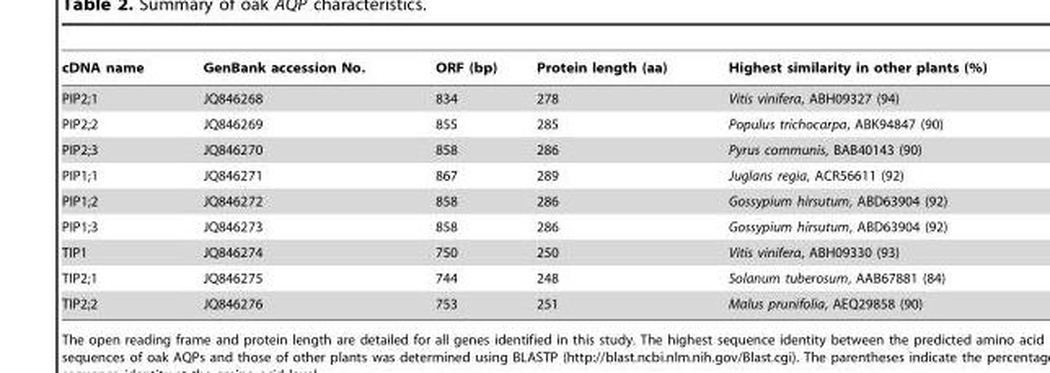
<table><thead><tr><td>cDNA name</td><td>GenBank accession No.</td><td>ORF (bp)</td><td>Protein length (aa)</td><td>Highest similarity in other plants (%)</td></tr></thead><tbody><tr><td>PIP2;1</td><td>JQ846268</td><td>834</td><td>278</td><td>Vitis vinifera, ABH09327 (94)</td></tr><tr><td>PIP2;2</td><td>JQ846269</td><td>855</td><td>285</td><td>Populus trichocarpa, ABK94847 (90)</td></tr><tr><td>PIP2;3</td><td>JQ846270</td><td>858</td><td>286</td><td>Pyrus communis, BAB40143 (90)</td></tr><tr><td>PIP1;1</td><td>JQ846271</td><td>867</td><td>289</td><td>Juglans regia, ACR56611 (92)</td></tr><tr><td>PIP1;2</td><td>JQ846272</td><td>858</td><td>286</td><td>Gossypium hirsutum, ABD63904 (92)</td></tr><tr><td>PIP1;3</td><td>JQ846273</td><td>858</td><td>286</td><td>Gossypium hirsutum, ABD63904 (92)</td></tr><tr><td>TIP1</td><td>JQ846274</td><td>750</td><td>250</td><td>Vitis vinifera, ABH09330 (93)</td></tr><tr><td>TIP2;1</td><td>JQ846275</td><td>744</td><td>248</td><td>Solanum tuberosum, AAB67881 (84)</td></tr><tr><td>TIP2;2</td><td>JQ846276</td><td>753</td><td>251</td><td>Malus prunifolia, AEQ29858 (90)</td></tr></tbody></table>